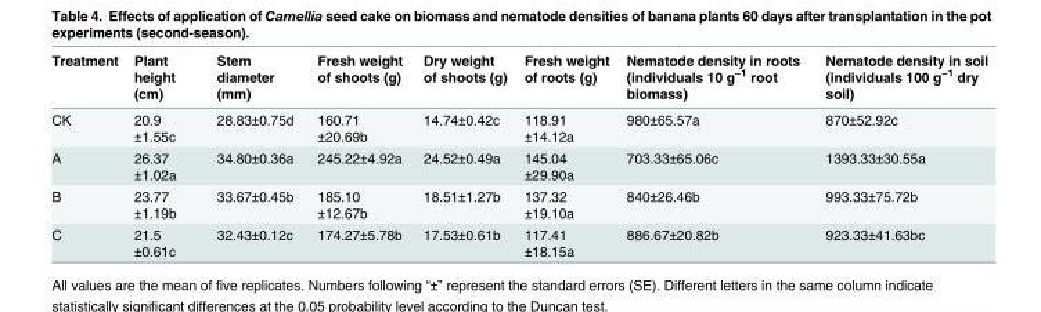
<table><thead><tr><td>Treatment</td><td>Plant height (cm)</td><td>Stem diameter (mm)</td><td>Fresh weight of shoots (g)</td><td>Dry weight of shoots (g)</td><td>Fresh weight of roots (g)</td><td>Nematode density in roots (individuals 10 g<sup>−1</sup> root biomass)</td><td>Nematode density in soil (individuals 100 g<sup>−1</sup> dry soil)</td></tr></thead><tbody><tr><td>CK</td><td>20.9 ±1.55c</td><td>28.83±0.75d</td><td>160.71 ±20.69b</td><td>14.74±0.42c</td><td>118.91 ±14.12a</td><td>980±65.57a</td><td>870±52.92c</td></tr><tr><td>A</td><td>26.37 ±1.02a</td><td>34.80±0.36a</td><td>245.22±4.92a</td><td>24.52±0.49a</td><td>145.04 ±29.90a</td><td>703.33±65.06c</td><td>1393.33±30.55a</td></tr><tr><td>B</td><td>23.77 ±1.19b</td><td>33.67±0.45b</td><td>185.10 ±12.67b</td><td>18.51±1.27b</td><td>137.32 ±19.10a</td><td>840±26.46b</td><td>993.33±75.72b</td></tr><tr><td>C</td><td>21.5 ±0.61c</td><td>32.43±0.12c</td><td>174.27±5.78b</td><td>17.53±0.61b</td><td>117.41 ±18.15a</td><td>886.67±20.82b</td><td>923.33±41.63bc</td></tr></tbody></table>